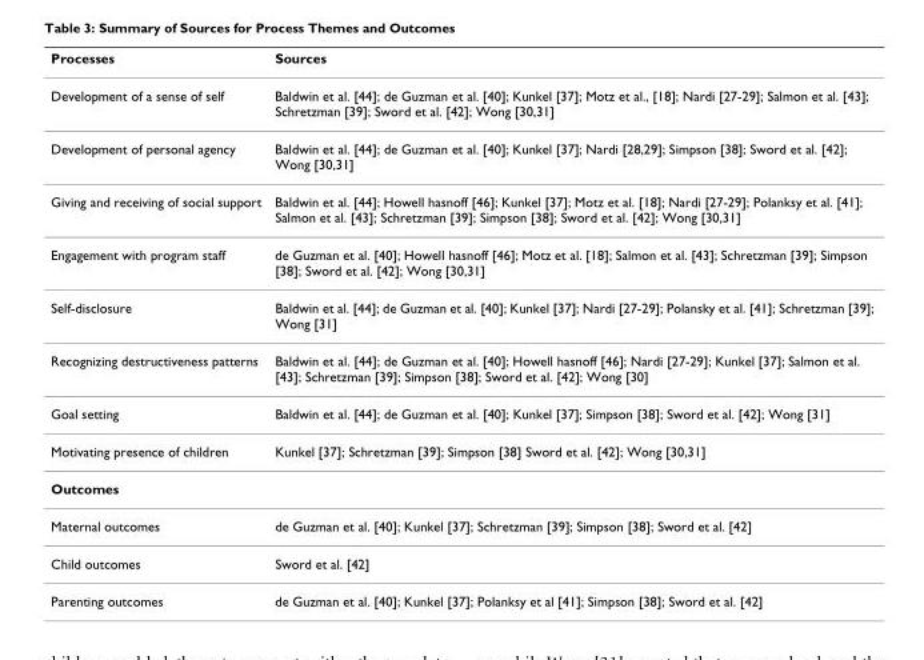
<table><thead><tr><td>Processes</td><td>Sources</td></tr></thead><tbody><tr><td>Development of a sense of self</td><td>Baldwin et al. [44]; de Guzman et al. [40]; Kunkel [37]; Motz et al., [18]; Nardi [27-29]; Salmon et al. [43]; Schretzman [39]; Sword et al. [42]; Wong [30,31]</td></tr><tr><td>Development of personal agency</td><td>Baldwin et al. [44]; de Guzman et al. [40]; Kunkel [37]; Nardi [28,29]; Simpson [38]; Sword et al. [42]; Wong [30,31]</td></tr><tr><td>Giving and receiving of social support</td><td>Baldwin et al. [44]; Howell hasnoff [46]; Kunkel [37]; Motz et al. [18]; Nardi [27-29]; Polanksy et al. [41]; Salmon et al. [43]; Schretzman [39]; Simpson [38]; Sword et al. [42]; Wong [30,31]</td></tr><tr><td>Engagement with program staff</td><td>de Guzman et al. [40]; Howell hasnoff [46]; Motz et al. [18]; Salmon et al. [43]; Schretzman [39]; Simpson [38]; Sword et al. [42]; Wong [30,31]</td></tr><tr><td>Self-disclosure</td><td>Baldwin et al. [44]; de Guzman et al. [40]; Kunkel [37]; Nardi [27-29]; Polansky et al. [41]; Schretzman [39]; Wong [31]</td></tr><tr><td>Recognizing destructiveness patterns</td><td>Baldwin et al. [44]; de Guzman et al. [40]; Howell hasnoff [46]; Nardi [27-29]; Kunkel [37]; Salmon et al. [43]; Schretzman [39]; Simpson [38]; Sword et al. [42]; Wong [30]</td></tr><tr><td>Goal setting</td><td>Baldwin et al. [44]; de Guzman et al. [40]; Kunkel [37]; Simpson [38]; Sword et al. [42]; Wong [31]</td></tr><tr><td>Motivating presence of children</td><td>Kunkel [37]; Schretzman [39]; Simpson [38] Sword et al. [42]; Wong [30,31]</td></tr><tr><td colspan="2">Outcomes</td></tr><tr><td>Maternal outcomes</td><td>de Guzman et al. [40]; Kunkel [37]; Schretzman [39]; Simpson [38]; Sword et al. [42]</td></tr><tr><td>Child outcomes</td><td>Sword et al. [42]</td></tr><tr><td>Parenting outcomes</td><td>de Guzman et al. [40]; Kunkel [37]; Polanksy et al [41]; Simpson [38]; Sword et al. [42]</td></tr></tbody></table>